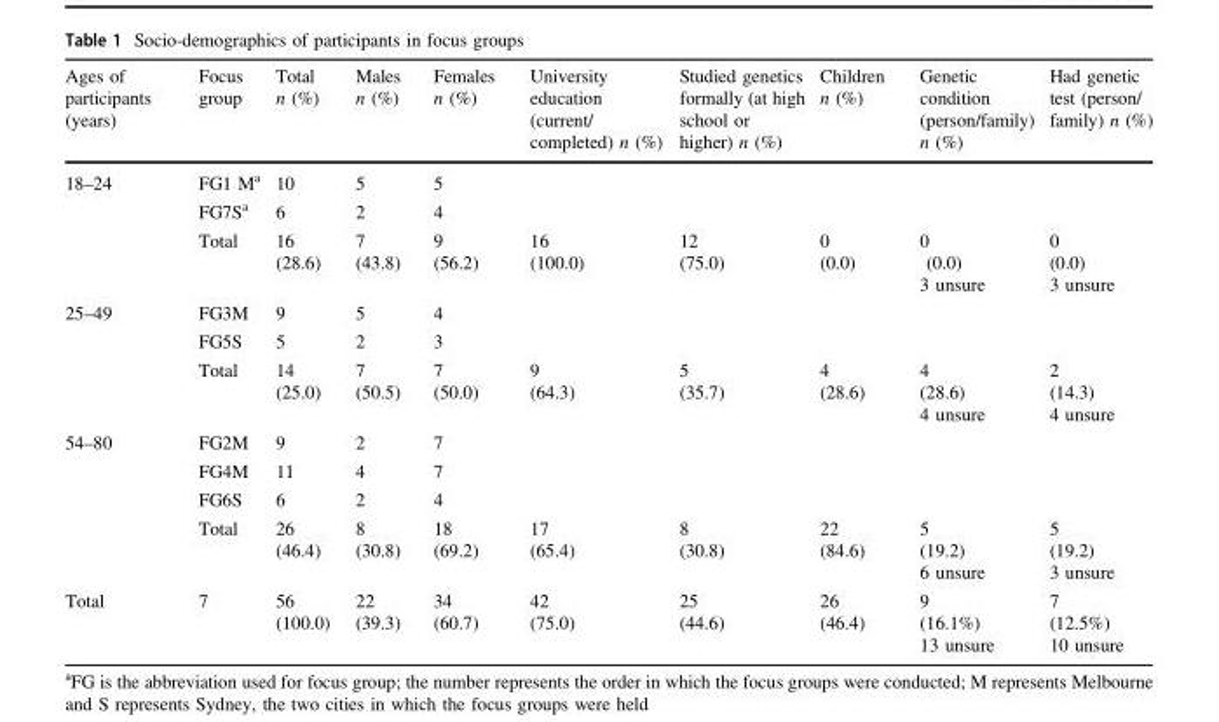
<table><thead><tr><td>Ages of participants (years)</td><td>Focus group</td><td>Total n (%)</td><td>Males n (%)</td><td>Females n (%)</td><td>University education (current/ completed) n (%)</td><td>Studied genetics formally (at high school or higher) n (%)</td><td>Children n (%)</td><td>Genetic condition (person/family) n (%)</td><td>Had genetic test (person/ family) n (%)</td></tr></thead><tbody><tr><td rowspan="3">18–24</td><td>FG1 M<sup>a</sup></td><td>10</td><td>5</td><td>5</td><td></td><td></td><td></td><td></td><td></td></tr><tr><td>FG7S<sup>a</sup></td><td>6</td><td>2</td><td>4</td><td></td><td></td><td></td><td></td><td></td></tr><tr><td>Total</td><td>16 (28.6)</td><td>7 (43.8)</td><td>9 (56.2)</td><td>16 (100.0)</td><td>12 (75.0)</td><td>0 (0.0)</td><td>0 (0.0) 3 unsure</td><td>0 (0.0) 3 unsure</td></tr><tr><td rowspan="3">25–49</td><td>FG3M</td><td>9</td><td>5</td><td>4</td><td></td><td></td><td></td><td></td><td></td></tr><tr><td>FG5S</td><td>5</td><td>2</td><td>3</td><td></td><td></td><td></td><td></td><td></td></tr><tr><td>Total</td><td>14 (25.0)</td><td>7 (50.5)</td><td>7 (50.0)</td><td>9 (64.3)</td><td>5 (35.7)</td><td>4 (28.6)</td><td>4 (28.6) 4 unsure</td><td>2 (14.3) 4 unsure</td></tr><tr><td rowspan="4">54–80</td><td>FG2M</td><td>9</td><td>2</td><td>7</td><td></td><td></td><td></td><td></td><td></td></tr><tr><td>FG4M</td><td>11</td><td>4</td><td>7</td><td></td><td></td><td></td><td></td><td></td></tr><tr><td>FG6S</td><td>6</td><td>2</td><td>4</td><td></td><td></td><td></td><td></td><td></td></tr><tr><td>Total</td><td>26 (46.4)</td><td>8 (30.8)</td><td>18 (69.2)</td><td>17 (65.4)</td><td>8 (30.8)</td><td>22 (84.6)</td><td>5 (19.2) 6 unsure</td><td>5 (19.2) 3 unsure</td></tr><tr><td>Total</td><td>7</td><td>56 (100.0)</td><td>22 (39.3)</td><td>34 (60.7)</td><td>42 (75.0)</td><td>25 (44.6)</td><td>26 (46.4)</td><td>9 (16.1%) 13 unsure</td><td>7 (12.5%) 10 unsure</td></tr></tbody></table>